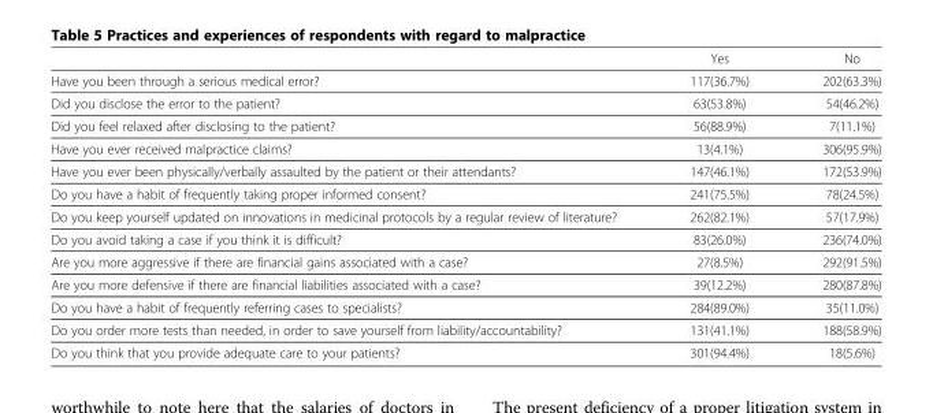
<table><thead><tr><td></td><td>Yes</td><td>No</td></tr></thead><tbody><tr><td>Have you been through a serious medical error?</td><td>117(36.7%)</td><td>202(63.3%)</td></tr><tr><td>Did you disclose the error to the patient?</td><td>63(53.8%)</td><td>54(46.2%)</td></tr><tr><td>Did you feel relaxed after disclosing to the patient?</td><td>56(88.9%)</td><td>7(11.1%)</td></tr><tr><td>Have you ever received malpractice claims?</td><td>13(4.1%)</td><td>306(95.9%)</td></tr><tr><td>Have you ever been physically/verbally assaulted by the patient or their attendants?</td><td>147(46.1%)</td><td>172(53.9%)</td></tr><tr><td>Do you have a habit of frequently taking proper informed consent?</td><td>241(75.5%)</td><td>78(24.5%)</td></tr><tr><td>Do you keep yourself updated on innovations in medicinal protocols by a regular review of literature?</td><td>262(82.1%)</td><td>57(17.9%)</td></tr><tr><td>Do you avoid taking a case if you think it is difficult?</td><td>83(26.0%)</td><td>236(74.0%)</td></tr><tr><td>Are you more aggressive if there are financial gains associated with a case?</td><td>27(8.5%)</td><td>292(91.5%)</td></tr><tr><td>Are you more defensive if there are financial liabilities associated with a case?</td><td>39(12.2%)</td><td>280(87.8%)</td></tr><tr><td>Do you have a habit of frequently referring cases to specialists?</td><td>284(89.0%)</td><td>35(11.0%)</td></tr><tr><td>Do you order more tests than needed, in order to save yourself from liability/accountability?</td><td>131(41.1%)</td><td>188(58.9%)</td></tr><tr><td>Do you think that you provide adequate care to your patients?</td><td>301(94.4%)</td><td>18(5.6%)</td></tr></tbody></table>